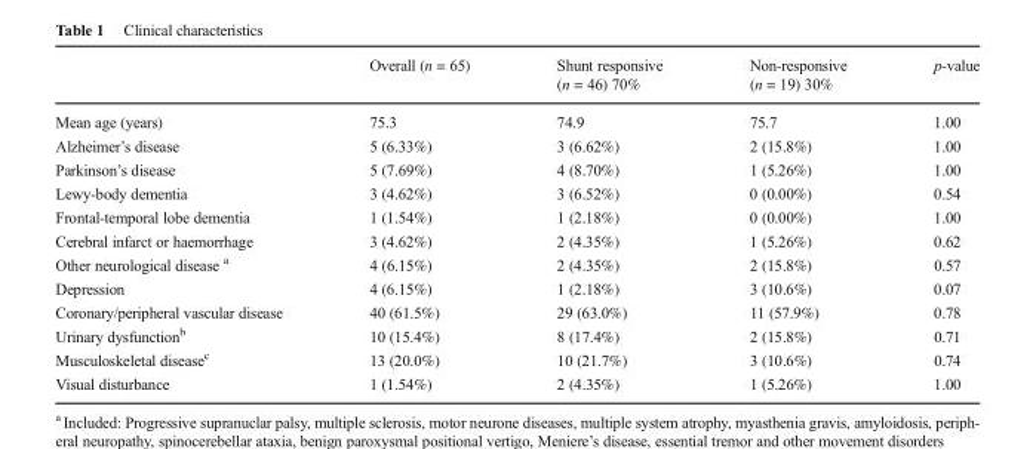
<table><thead><tr><td></td><td>Overall (n = 65)</td><td>Shunt responsive (n = 46) 70%</td><td>Non-responsive (n = 19) 30%</td><td>p-value</td></tr></thead><tbody><tr><td>Mean age (years)</td><td>75.3</td><td>74.9</td><td>75.7</td><td>1.00</td></tr><tr><td>Alzheimer’s disease</td><td>5 (6.33%)</td><td>3 (6.62%)</td><td>2 (15.8%)</td><td>1.00</td></tr><tr><td>Parkinson’s disease</td><td>5 (7.69%)</td><td>4 (8.70%)</td><td>1 (5.26%)</td><td>1.00</td></tr><tr><td>Lewy-body dementia</td><td>3 (4.62%)</td><td>3 (6.52%)</td><td>0 (0.00%)</td><td>0.54</td></tr><tr><td>Frontal-temporal lobe dementia</td><td>1 (1.54%)</td><td>1 (2.18%)</td><td>0 (0.00%)</td><td>1.00</td></tr><tr><td>Cerebral infarct or haemorrhage</td><td>3 (4.62%)</td><td>2 (4.35%)</td><td>1 (5.26%)</td><td>0.62</td></tr><tr><td>Other neurological disease <sup>a</sup></td><td>4 (6.15%)</td><td>2 (4.35%)</td><td>2 (15.8%)</td><td>0.57</td></tr><tr><td>Depression</td><td>4 (6.15%)</td><td>1 (2.18%)</td><td>3 (10.6%)</td><td>0.07</td></tr><tr><td>Coronary/peripheral vascular disease</td><td>40 (61.5%)</td><td>29 (63.0%)</td><td>11 (57.9%)</td><td>0.78</td></tr><tr><td>Urinary dysfunction<sup>b</sup></td><td>10 (15.4%)</td><td>8 (17.4%)</td><td>2 (15.8%)</td><td>0.71</td></tr><tr><td>Musculoskeletal disease<sup>c</sup></td><td>13 (20.0%)</td><td>10 (21.7%)</td><td>3 (10.6%)</td><td>0.74</td></tr><tr><td>Visual disturbance</td><td>1 (1.54%)</td><td>2 (4.35%)</td><td>1 (5.26%)</td><td>1.00</td></tr></tbody></table>